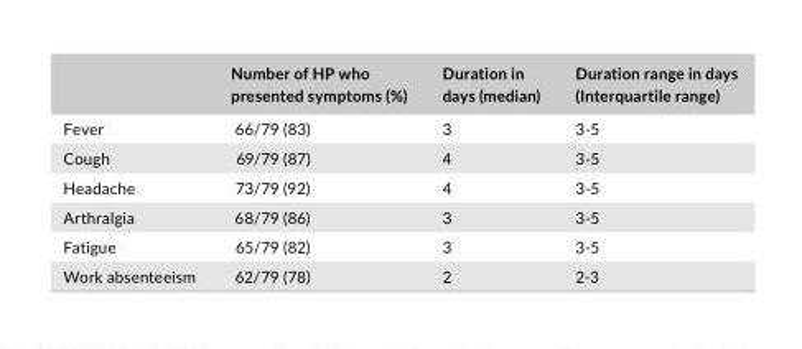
<table><thead><tr><td></td><td>Number of HP who presented symptoms (%)</td><td>Duration in days (median)</td><td>Duration range in days (Interquartile range)</td></tr></thead><tbody><tr><td>Fever</td><td>66/79 (83)</td><td>3</td><td>3- 5</td></tr><tr><td>Cough</td><td>69/79 (87)</td><td>4</td><td>3- 5</td></tr><tr><td>Headache</td><td>73/79 (92)</td><td>4</td><td>3- 5</td></tr><tr><td>Arthralgia</td><td>68/79 (86)</td><td>3</td><td>3- 5</td></tr><tr><td>Fatigue</td><td>65/79 (82)</td><td>3</td><td>3- 5</td></tr><tr><td>Work absenteeism</td><td>62/79 (78)</td><td>2</td><td>2- 3</td></tr></tbody></table>